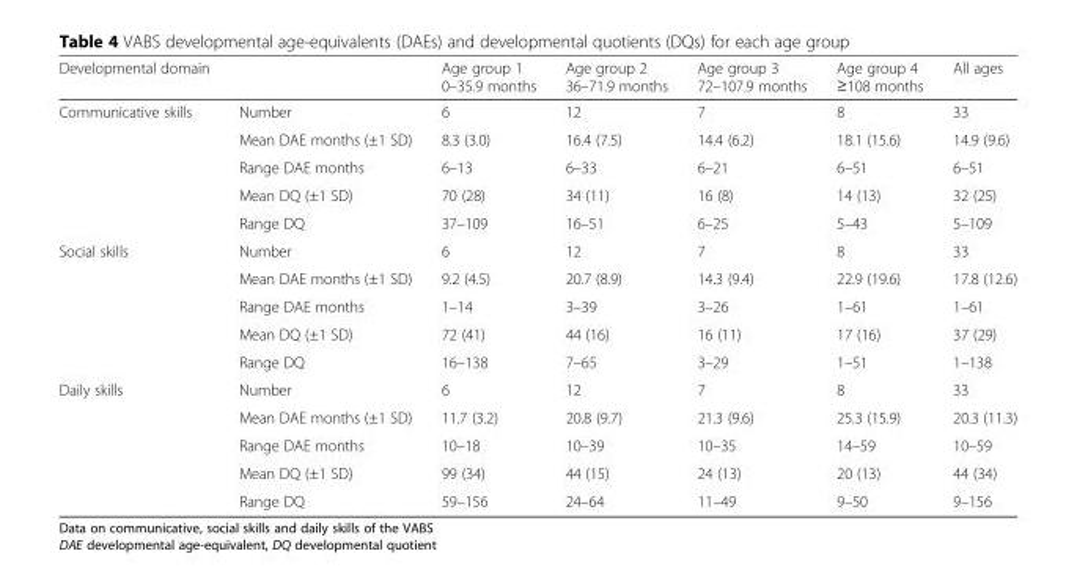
<table><thead><tr><td>Developmental domain</td><td></td><td>Age group 1 0–35.9 months</td><td>Age group 2 36–71.9 months</td><td>Age group 3 72–107.9 months</td><td>Age group 4 ≥108 months</td><td>All ages</td></tr></thead><tbody><tr><td rowspan="5">Communicative skills</td><td>Number</td><td>6</td><td>12</td><td>7</td><td>8</td><td>33</td></tr><tr><td>Mean DAE months (±1 SD)</td><td>8.3 (3.0)</td><td>16.4 (7.5)</td><td>14.4 (6.2)</td><td>18.1 (15.6)</td><td>14.9 (9.6)</td></tr><tr><td>Range DAE months</td><td>6–13</td><td>6–33</td><td>6–21</td><td>6–51</td><td>6–51</td></tr><tr><td>Mean DQ (±1 SD)</td><td>70 (28)</td><td>34 (11)</td><td>16 (8)</td><td>14 (13)</td><td>32 (25)</td></tr><tr><td>Range DQ</td><td>37–109</td><td>16–51</td><td>6–25</td><td>5–43</td><td>5–109</td></tr><tr><td rowspan="5">Social skills</td><td>Number</td><td>6</td><td>12</td><td>7</td><td>8</td><td>33</td></tr><tr><td>Mean DAE months (±1 SD)</td><td>9.2 (4.5)</td><td>20.7 (8.9)</td><td>14.3 (9.4)</td><td>22.9 (19.6)</td><td>17.8 (12.6)</td></tr><tr><td>Range DAE months</td><td>1–14</td><td>3–39</td><td>3–26</td><td>1–61</td><td>1–61</td></tr><tr><td>Mean DQ (±1 SD)</td><td>72 (41)</td><td>44 (16)</td><td>16 (11)</td><td>17 (16)</td><td>37 (29)</td></tr><tr><td>Range DQ</td><td>16–138</td><td>7–65</td><td>3–29</td><td>1–51</td><td>1–138</td></tr><tr><td rowspan="5">Daily skills</td><td>Number</td><td>6</td><td>12</td><td>7</td><td>8</td><td>33</td></tr><tr><td>Mean DAE months (±1 SD)</td><td>11.7 (3.2)</td><td>20.8 (9.7)</td><td>21.3 (9.6)</td><td>25.3 (15.9)</td><td>20.3 (11.3)</td></tr><tr><td>Range DAE months</td><td>10–18</td><td>10–39</td><td>10–35</td><td>14–59</td><td>10–59</td></tr><tr><td>Mean DQ (±1 SD)</td><td>99 (34)</td><td>44 (15)</td><td>24 (13)</td><td>20 (13)</td><td>44 (34)</td></tr><tr><td>Range DQ</td><td>59–156</td><td>24–64</td><td>11–49</td><td>9–50</td><td>9–156</td></tr></tbody></table>